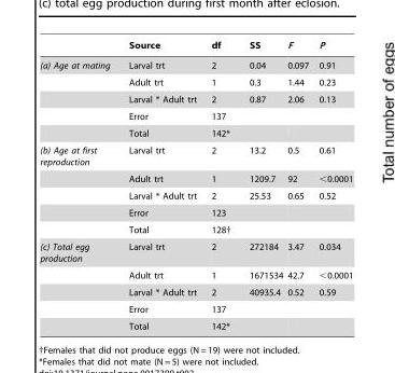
<table><thead><tr><td></td><td>Source</td><td>df</td><td>SS</td><td>F</td><td>P</td></tr></thead><tbody><tr><td rowspan="5">(a) Age at mating</td><td>Larval trt</td><td>2</td><td>0.04</td><td>0.097</td><td>0.91</td></tr><tr><td>Adult trt</td><td>1</td><td>0.3</td><td>1.44</td><td>0.23</td></tr><tr><td>Larval * Adult trt</td><td>2</td><td>0.87</td><td>2.06</td><td>0.13</td></tr><tr><td>Error</td><td>137</td><td></td><td></td><td></td></tr><tr><td>Total</td><td>142*</td><td></td><td></td><td></td></tr><tr><td rowspan="5">(b) Age at first reproduction</td><td>Larval trt</td><td>2</td><td>13.2</td><td>0.5</td><td>0.61</td></tr><tr><td>Adult trt</td><td>1</td><td>1209.7</td><td>92</td><td>&lt;0.0001</td></tr><tr><td>Larval * Adult trt</td><td>2</td><td>25.53</td><td>0.65</td><td>0.52</td></tr><tr><td>Error</td><td>123</td><td></td><td></td><td></td></tr><tr><td>Total</td><td>128†</td><td></td><td></td><td></td></tr><tr><td rowspan="5">(c) Total egg production</td><td>Larval trt</td><td>2</td><td>272184</td><td>3.47</td><td>0.034</td></tr><tr><td>Adult trt</td><td>1</td><td>1671534</td><td>42.7</td><td>&lt;0.0001</td></tr><tr><td>Larval * Adult trt</td><td>2</td><td>40935.4</td><td>0.52</td><td>0.59</td></tr><tr><td>Error</td><td>137</td><td></td><td></td><td></td></tr><tr><td>Total</td><td>142*</td><td></td><td></td><td></td></tr></tbody></table>